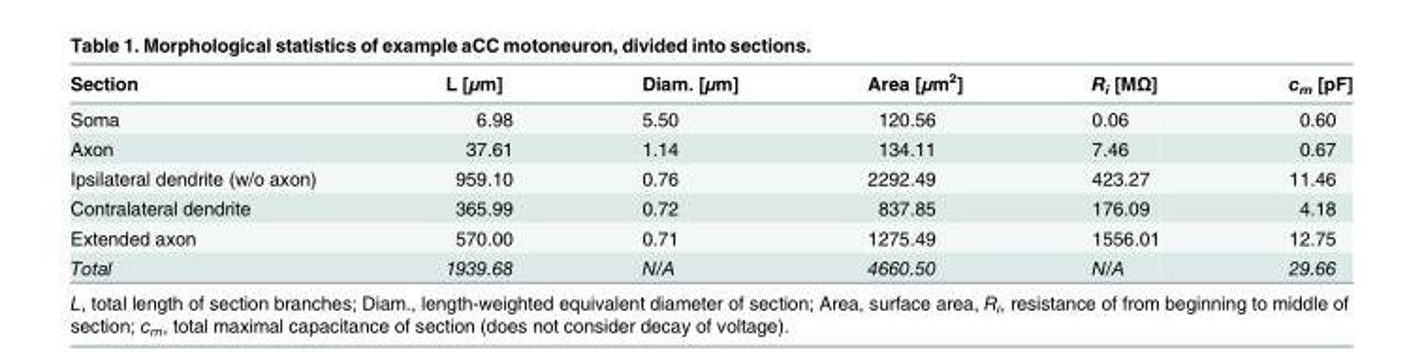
<table><thead><tr><td>Section</td><td>L [μm]</td><td>Diam. [μm]</td><td>Area [μm<sup>2</sup>]</td><td>R<sub>i</sub> [MΩ]</td><td>c<sub>m</sub> [pF]</td></tr></thead><tbody><tr><td>Soma</td><td>6.98</td><td>5.50</td><td>120.56</td><td>0.06</td><td>0.60</td></tr><tr><td>Axon</td><td>37.61</td><td>1.14</td><td>134.11</td><td>7.46</td><td>0.67</td></tr><tr><td>Ipsilateral dendrite (w/o axon)</td><td>959.10</td><td>0.76</td><td>2292.49</td><td>423.27</td><td>11.46</td></tr><tr><td>Contralateral dendrite</td><td>365.99</td><td>0.72</td><td>837.85</td><td>176.09</td><td>4.18</td></tr><tr><td>Extended axon</td><td>570.00</td><td>0.71</td><td>1275.49</td><td>1556.01</td><td>12.75</td></tr><tr><td>Total</td><td>1939.68</td><td>N/A</td><td>4660.50</td><td>N/A</td><td>29.66</td></tr></tbody></table>